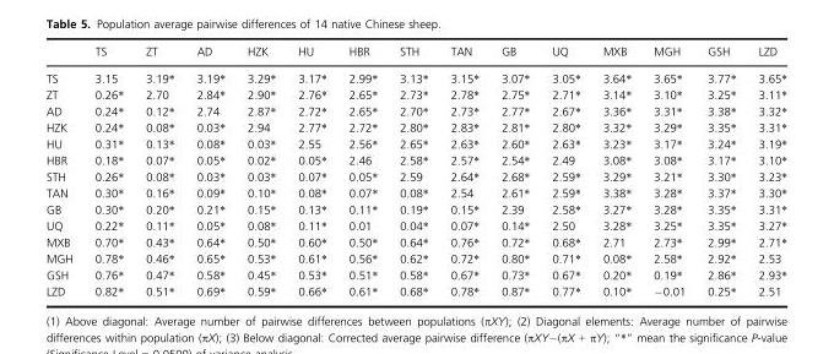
<table><thead><tr><td></td><td>TS</td><td>ZT</td><td>AD</td><td>HZK</td><td>HU</td><td>HBR</td><td>STH</td><td>TAN</td><td>GB</td><td>UQ</td><td>MXB</td><td>MGH</td><td>GSH</td><td>LZD</td></tr></thead><tbody><tr><td>TS</td><td>3.15</td><td>3.19*</td><td>3.19*</td><td>3.29*</td><td>3.17*</td><td>2.99*</td><td>3.13*</td><td>3.15*</td><td>3.07*</td><td>3.05*</td><td>3.64*</td><td>3.65*</td><td>3.77*</td><td>3.65*</td></tr><tr><td>ZT</td><td>0.26*</td><td>2.70</td><td>2.84*</td><td>2.90*</td><td>2.76*</td><td>2.65*</td><td>2.73*</td><td>2.78*</td><td>2.75*</td><td>2.71*</td><td>3.14*</td><td>3.10*</td><td>3.25*</td><td>3.11*</td></tr><tr><td>AD</td><td>0.24*</td><td>0.12*</td><td>2.74</td><td>2.87*</td><td>2.72*</td><td>2.65*</td><td>2.70*</td><td>2.73*</td><td>2.77*</td><td>2.67*</td><td>3.36*</td><td>3.31*</td><td>3.38*</td><td>3.32*</td></tr><tr><td>HZK</td><td>0.24*</td><td>0.08*</td><td>0.03*</td><td>2.94</td><td>2.77*</td><td>2.72*</td><td>2.80*</td><td>2.83*</td><td>2.81*</td><td>2.80*</td><td>3.32*</td><td>3.29*</td><td>3.35*</td><td>3.31*</td></tr><tr><td>HU</td><td>0.31*</td><td>0.13*</td><td>0.08*</td><td>0.03*</td><td>2.55</td><td>2.56*</td><td>2.65*</td><td>2.63*</td><td>2.60*</td><td>2.63*</td><td>3.23*</td><td>3.17*</td><td>3.24*</td><td>3.19*</td></tr><tr><td>HBR</td><td>0.18*</td><td>0.07*</td><td>0.05*</td><td>0.02*</td><td>0.05*</td><td>2.46</td><td>2.58*</td><td>2.57*</td><td>2.54*</td><td>2.49</td><td>3.08*</td><td>3.08*</td><td>3.17*</td><td>3.10*</td></tr><tr><td>STH</td><td>0.26*</td><td>0.08*</td><td>0.03*</td><td>0.03*</td><td>0.07*</td><td>0.05*</td><td>2.59</td><td>2.64*</td><td>2.68*</td><td>2.59*</td><td>3.29*</td><td>3.21*</td><td>3.30*</td><td>3.23*</td></tr><tr><td>TAN</td><td>0.30*</td><td>0.16*</td><td>0.09*</td><td>0.10*</td><td>0.08*</td><td>0.07*</td><td>0.08*</td><td>2.54</td><td>2.61*</td><td>2.59*</td><td>3.38*</td><td>3.28*</td><td>3.37*</td><td>3.30*</td></tr><tr><td>GB</td><td>0.30*</td><td>0.20*</td><td>0.21*</td><td>0.15*</td><td>0.13*</td><td>0.11*</td><td>0.19*</td><td>0.15*</td><td>2.39</td><td>2.58*</td><td>3.27*</td><td>3.28*</td><td>3.35*</td><td>3.31*</td></tr><tr><td>UQ</td><td>0.22*</td><td>0.11*</td><td>0.05*</td><td>0.08*</td><td>0.11*</td><td>0.01</td><td>0.04*</td><td>0.07*</td><td>0.14*</td><td>2.50</td><td>3.28*</td><td>3.25*</td><td>3.35*</td><td>3.27*</td></tr><tr><td>MXB</td><td>0.70*</td><td>0.43*</td><td>0.64*</td><td>0.50*</td><td>0.60*</td><td>0.50*</td><td>0.64*</td><td>0.76*</td><td>0.72*</td><td>0.68*</td><td>2.71</td><td>2.73*</td><td>2.99*</td><td>2.71*</td></tr><tr><td>MGH</td><td>0.78*</td><td>0.46*</td><td>0.65*</td><td>0.53*</td><td>0.61*</td><td>0.56*</td><td>0.62*</td><td>0.72*</td><td>0.80*</td><td>0.71*</td><td>0.08*</td><td>2.58*</td><td>2.92*</td><td>2.53</td></tr><tr><td>GSH</td><td>0.76*</td><td>0.47*</td><td>0.58*</td><td>0.45*</td><td>0.53*</td><td>0.51*</td><td>0.58*</td><td>0.67*</td><td>0.73*</td><td>0.67*</td><td>0.20*</td><td>0.19*</td><td>2.86*</td><td>2.93*</td></tr><tr><td>LZD</td><td>0.82*</td><td>0.51*</td><td>0.69*</td><td>0.59*</td><td>0.66*</td><td>0.61*</td><td>0.68*</td><td>0.78*</td><td>0.87*</td><td>0.77*</td><td>0.10*</td><td>−0.01</td><td>0.25*</td><td>2.51</td></tr></tbody></table>